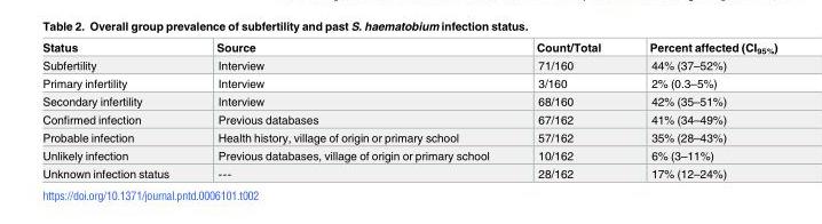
<table><thead><tr><td>Status</td><td>Source</td><td>Count/Total</td><td>Percent affected (CI<sub>95%</sub>)</td></tr></thead><tbody><tr><td>Subfertility</td><td>Interview</td><td>71/160</td><td>44% (37–52%)</td></tr><tr><td>Primary infertility</td><td>Interview</td><td>3/160</td><td>2% (0.3–5%)</td></tr><tr><td>Secondary infertility</td><td>Interview</td><td>68/160</td><td>42% (35–51%)</td></tr><tr><td>Confirmed infection</td><td>Previous databases</td><td>67/162</td><td>41% (34–49%)</td></tr><tr><td>Probable infection</td><td>Health history, village of origin or primary school</td><td>57/162</td><td>35% (28–43%)</td></tr><tr><td>Unlikely infection</td><td>Previous databases, village of origin or primary school</td><td>10/162</td><td>6% (3–11%)</td></tr><tr><td>Unknown infection status</td><td>---</td><td>28/162</td><td>17% (12–24%)</td></tr></tbody></table>